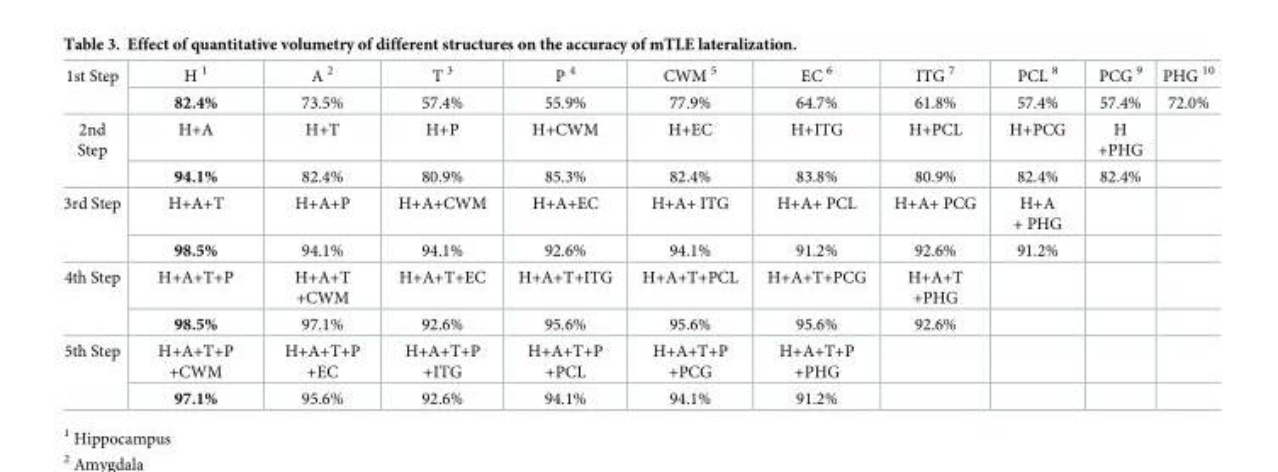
<table><tbody><tr><td rowspan="2">1st Step</td><td>H <sup>1</sup></td><td>A <sup>2</sup></td><td>T <sup>3</sup></td><td>P <sup>4</sup></td><td>CWM <sup>5</sup></td><td>EC <sup>6</sup></td><td>ITG <sup>7</sup></td><td>PCL <sup>8</sup></td><td>PCG <sup>9</sup></td><td>PHG <sup>10</sup></td></tr><tr><td>82.4%</td><td>73.5%</td><td>57.4%</td><td>55.9%</td><td>77.9%</td><td>64.7%</td><td>61.8%</td><td>57.4%</td><td>57.4%</td><td>72.0%</td></tr><tr><td rowspan="2">2nd Step</td><td>H+A</td><td>H+T</td><td>H+P</td><td>H+CWM</td><td>H+EC</td><td>H+ITG</td><td>H+PCL</td><td>H+PCG</td><td>H +PHG</td><td></td></tr><tr><td>94.1%</td><td>82.4%</td><td>80.9%</td><td>85.3%</td><td>82.4%</td><td>83.8%</td><td>80.9%</td><td>82.4%</td><td>82.4%</td><td></td></tr><tr><td rowspan="2">3rd Step</td><td>H+A+T</td><td>H+A+P</td><td>H+A+CWM</td><td>H+A+EC</td><td>H+A+ ITG</td><td>H+A+ PCL</td><td>H+A+ PCG</td><td>H+A + PHG</td><td></td><td></td></tr><tr><td>98.5%</td><td>94.1%</td><td>94.1%</td><td>92.6%</td><td>94.1%</td><td>91.2%</td><td>92.6%</td><td>91.2%</td><td></td><td></td></tr><tr><td rowspan="2">4th Step</td><td>H+A+T+P</td><td>H+A+T +CWM</td><td>H+A+T+EC</td><td>H+A+T+ITG</td><td>H+A+T+PCL</td><td>H+A+T+PCG</td><td>H+A+T +PHG</td><td></td><td></td><td></td></tr><tr><td>98.5%</td><td>97.1%</td><td>92.6%</td><td>95.6%</td><td>95.6%</td><td>95.6%</td><td>92.6%</td><td></td><td></td><td></td></tr><tr><td rowspan="2">5th Step</td><td>H+A+T+P +CWM</td><td>H+A+T+P +EC</td><td>H+A+T+P +ITG</td><td>H+A+T+P +PCL</td><td>H+A+T+P +PCG</td><td>H+A+T+P +PHG</td><td></td><td></td><td></td><td></td></tr><tr><td>97.1%</td><td>95.6%</td><td>92.6%</td><td>94.1%</td><td>94.1%</td><td>91.2%</td><td></td><td></td><td></td><td></td></tr></tbody></table>